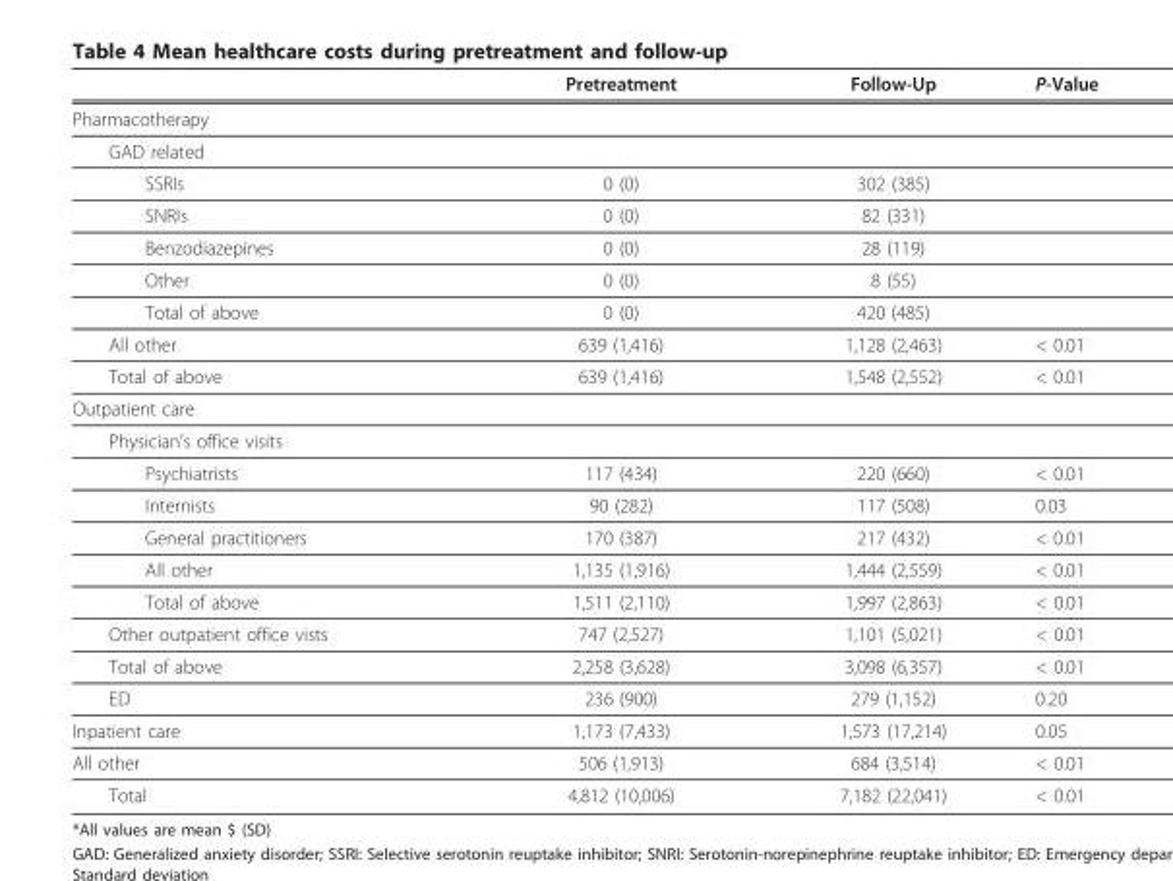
<table><thead><tr><td></td><td>Pretreatment</td><td>Follow-Up</td><td>P-Value</td></tr></thead><tbody><tr><td colspan="4">Pharmacotherapy</td></tr><tr><td colspan="4">GAD related</td></tr><tr><td>SSRIs</td><td>0 (0)</td><td>302 (385)</td><td></td></tr><tr><td>SNRIs</td><td>0 (0)</td><td>82 (331)</td><td></td></tr><tr><td>Benzodiazepines</td><td>0 (0)</td><td>28 (119)</td><td></td></tr><tr><td>Other</td><td>0 (0)</td><td>8 (55)</td><td></td></tr><tr><td>Total of above</td><td>0 (0)</td><td>420 (485)</td><td></td></tr><tr><td>All other</td><td>639 (1,416)</td><td>1,128 (2,463)</td><td>&lt; 0.01</td></tr><tr><td>Total of above</td><td>639 (1,416)</td><td>1,548 (2,552)</td><td>&lt; 0.01</td></tr><tr><td colspan="4">Outpatient care</td></tr><tr><td colspan="4">Physician’s office visits</td></tr><tr><td>Psychiatrists</td><td>117 (434)</td><td>220 (660)</td><td>&lt; 0.01</td></tr><tr><td>Internists</td><td>90 (282)</td><td>117 (508)</td><td>0.03</td></tr><tr><td>General practitioners</td><td>170 (387)</td><td>217 (432)</td><td>&lt; 0.01</td></tr><tr><td>All other</td><td>1,135 (1,916)</td><td>1,444 (2,559)</td><td>&lt; 0.01</td></tr><tr><td>Total of above</td><td>1,511 (2,110)</td><td>1,997 (2,863)</td><td>&lt; 0.01</td></tr><tr><td>Other outpatient office vists</td><td>747 (2,527)</td><td>1,101 (5,021)</td><td>&lt; 0.01</td></tr><tr><td>Total of above</td><td>2,258 (3,628)</td><td>3,098 (6,357)</td><td>&lt; 0.01</td></tr><tr><td>ED</td><td>236 (900)</td><td>279 (1,152)</td><td>0.20</td></tr><tr><td>Inpatient care</td><td>1,173 (7,433)</td><td>1,573 (17,214)</td><td>0.05</td></tr><tr><td>All other</td><td>506 (1,913)</td><td>684 (3,514)</td><td>&lt; 0.01</td></tr><tr><td>Total</td><td>4,812 (10,006)</td><td>7,182 (22,041)</td><td>&lt; 0.01</td></tr></tbody></table>